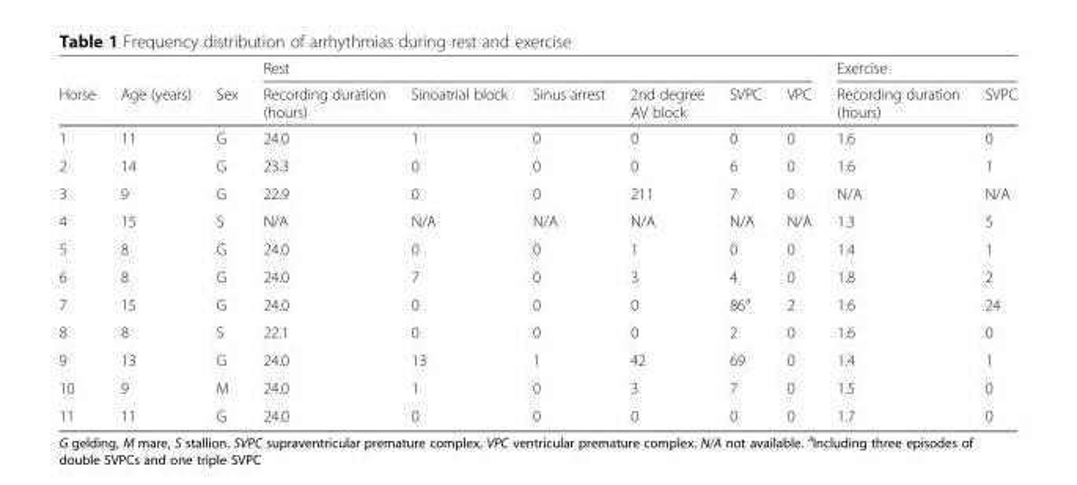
<table><thead><tr><td rowspan="2">Horse</td><td rowspan="2">Age (years)</td><td rowspan="2">Sex</td><td colspan="6">Rest</td><td colspan="2">Exercise</td></tr><tr><td>Recording duration (hours)</td><td>Sinoatrial block</td><td>Sinus arrest</td><td>2nd degree AV block</td><td>SVPC</td><td>VPC</td><td>Recording duration (hours)</td><td>SVPC</td></tr></thead><tbody><tr><td>1</td><td>11</td><td>G</td><td>24.0</td><td>1</td><td>0</td><td>0</td><td>0</td><td>0</td><td>1.6</td><td>0</td></tr><tr><td>2</td><td>14</td><td>G</td><td>23.3</td><td>0</td><td>0</td><td>0</td><td>6</td><td>0</td><td>1.6</td><td>1</td></tr><tr><td>3</td><td>9</td><td>G</td><td>22.9</td><td>0</td><td>0</td><td>211</td><td>7</td><td>0</td><td>N/A</td><td>N/A</td></tr><tr><td>4</td><td>15</td><td>S</td><td>N/A</td><td>N/A</td><td>N/A</td><td>N/A</td><td>N/A</td><td>N/A</td><td>1.3</td><td>5</td></tr><tr><td>5</td><td>8</td><td>G</td><td>24.0</td><td>0</td><td>0</td><td>1</td><td>0</td><td>0</td><td>1.4</td><td>1</td></tr><tr><td>6</td><td>8</td><td>G</td><td>24.0</td><td>7</td><td>0</td><td>3</td><td>4</td><td>0</td><td>1.8</td><td>2</td></tr><tr><td>7</td><td>15</td><td>G</td><td>24.0</td><td>0</td><td>0</td><td>0</td><td>86<sup>a</sup></td><td>2</td><td>1.6</td><td>24</td></tr><tr><td>8</td><td>8</td><td>S</td><td>22.1</td><td>0</td><td>0</td><td>0</td><td>2</td><td>0</td><td>1.6</td><td>0</td></tr><tr><td>9</td><td>13</td><td>G</td><td>24.0</td><td>13</td><td>1</td><td>42</td><td>69</td><td>0</td><td>1.4</td><td>1</td></tr><tr><td>10</td><td>9</td><td>M</td><td>24.0</td><td>1</td><td>0</td><td>3</td><td>7</td><td>0</td><td>1.5</td><td>0</td></tr><tr><td>11</td><td>11</td><td>G</td><td>24.0</td><td>0</td><td>0</td><td>0</td><td>0</td><td>0</td><td>1.7</td><td>0</td></tr></tbody></table>